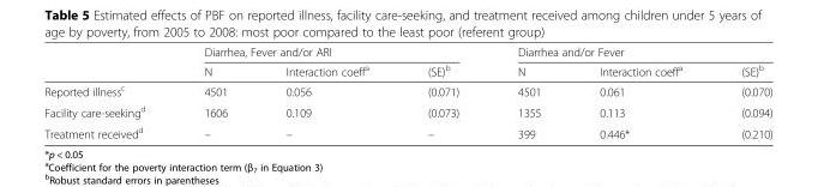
<table><thead><tr><td rowspan="2"></td><td colspan="3">Diarrhea, Fever and/or ARI</td><td colspan="3">Diarrhea and/or Fever</td></tr><tr><td>N</td><td>Interaction coeff<sup>a</sup></td><td>(SE)<sup>b</sup></td><td>N</td><td>Interaction coeff<sup>a</sup></td><td>(SE)<sup>b</sup></td></tr></thead><tbody><tr><td>Reported illness<sup>c</sup></td><td>4501</td><td>0.056</td><td>(0.071)</td><td>4501</td><td>0.061</td><td>(0.070)</td></tr><tr><td>Facility care-seeking<sup>d</sup></td><td>1606</td><td>0.109</td><td>(0.073)</td><td>1355</td><td>0.113</td><td>(0.094)</td></tr><tr><td>Treatment received<sup>d</sup></td><td>–</td><td>–</td><td>–</td><td>399</td><td>0.446*</td><td>(0.210)</td></tr></tbody></table>